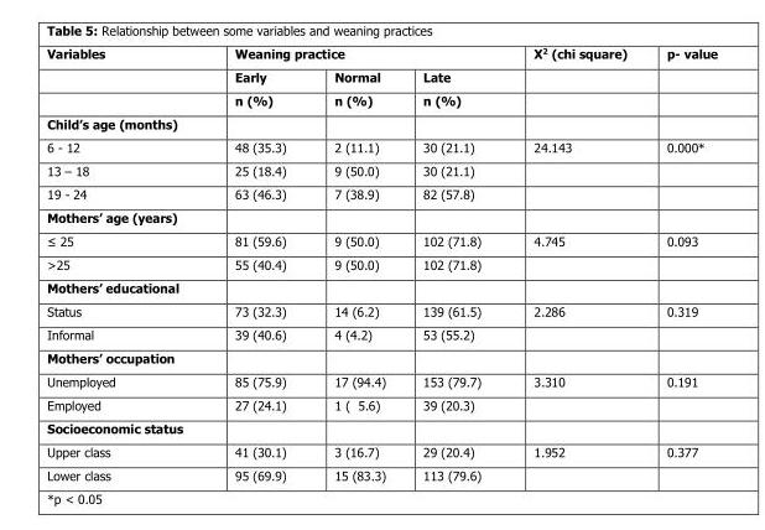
<table><thead><tr><td rowspan="3">Variables</td><td colspan="3">Weaning practice</td><td rowspan="3">X<sup>2</sup> (chi square)</td><td rowspan="3">p- value</td></tr><tr><td rowspan="2">Early n (%)</td><td rowspan="2">Normal n (%)</td><td rowspan="2">Late n (%)</td></tr><tr></tr></thead><tbody><tr><td colspan="6">Child’s age (months)</td></tr><tr><td>6 - 12</td><td>48 (35.3)</td><td>2 (11.1)</td><td>30 (21.1)</td><td>24.143</td><td>0.000*</td></tr><tr><td>13 – 18</td><td>25 (18.4)</td><td>9 (50.0)</td><td>30 (21.1)</td><td></td><td></td></tr><tr><td>19 - 24</td><td>63 (46.3)</td><td>7 (38.9)</td><td>82 (57.8)</td><td></td><td></td></tr><tr><td colspan="6">Mothers’ age (years)</td></tr><tr><td>≤ 25</td><td>81 (59.6)</td><td>9 (50.0)</td><td>102 (71.8)</td><td>4.745</td><td>0.093</td></tr><tr><td>&gt;25</td><td>55 (40.4)</td><td>9 (50.0)</td><td>102 (71.8)</td><td></td><td></td></tr><tr><td colspan="6">Mothers’ educational</td></tr><tr><td>Status</td><td>73 (32.3)</td><td>14 (6.2)</td><td>139 (61.5)</td><td>2.286</td><td>0.319</td></tr><tr><td>Informal</td><td>39 (40.6)</td><td>4 (4.2)</td><td>53 (55.2)</td><td></td><td></td></tr><tr><td colspan="6">Mothers’ occupation</td></tr><tr><td>Unemployed</td><td>85 (75.9)</td><td>17 (94.4)</td><td>153 (79.7)</td><td>3.310</td><td>0.191</td></tr><tr><td>Employed</td><td>27 (24.1)</td><td>1 ( 5.6)</td><td>39 (20.3)</td><td></td><td></td></tr><tr><td colspan="6">Socioeconomic status</td></tr><tr><td>Upper class</td><td>41 (30.1)</td><td>3 (16.7)</td><td>29 (20.4)</td><td>1.952</td><td>0.377</td></tr><tr><td>Lower class</td><td>95 (69.9)</td><td>15 (83.3)</td><td>113 (79.6)</td><td></td><td></td></tr></tbody></table>